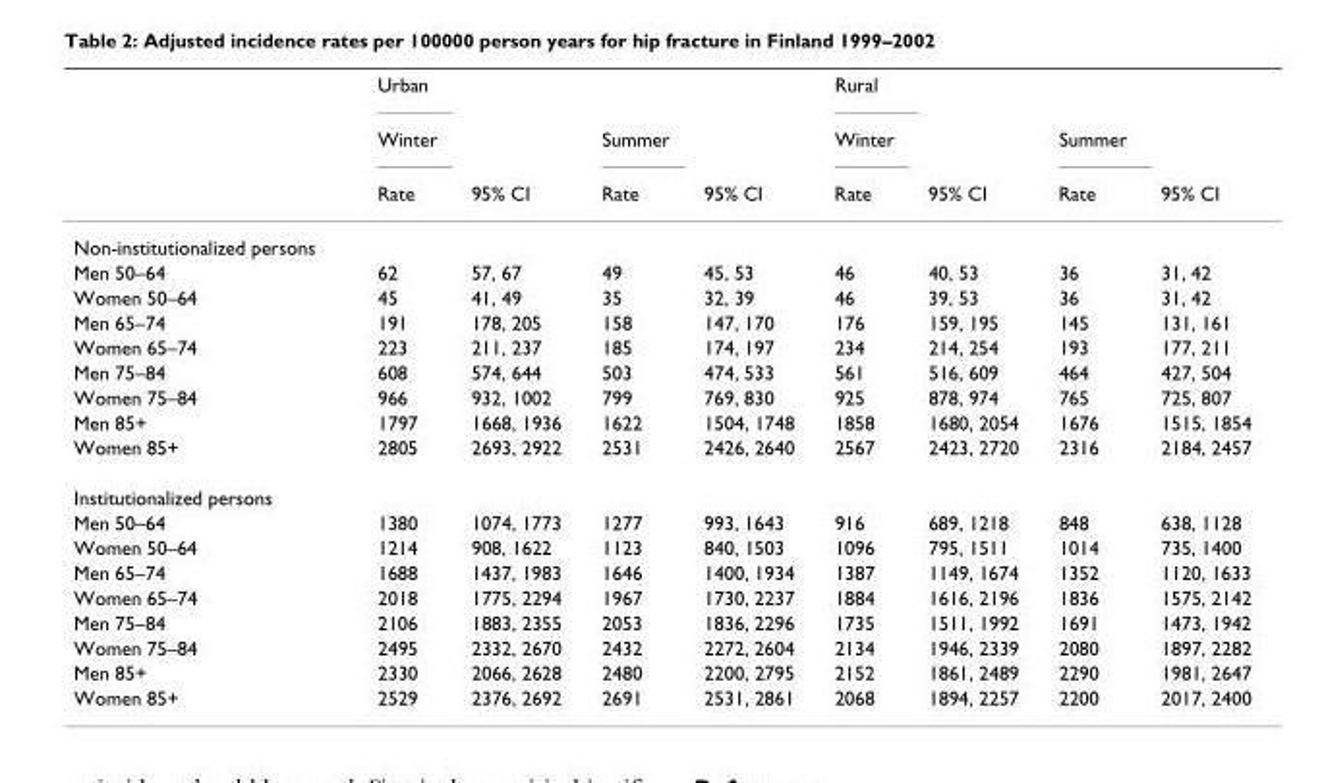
<table><thead><tr><td rowspan="3"></td><td rowspan="3">Urban Winter Rate</td><td rowspan="3">95% CI</td><td rowspan="3">Summer Rate</td><td rowspan="3">95% CI</td><td rowspan="3">Rural Winter Rate</td><td rowspan="3">95% CI</td><td rowspan="3">Summer Rate</td><td rowspan="3">95% CI</td></tr><tr></tr><tr></tr></thead><tbody><tr><td colspan="9">Non-institutionalized persons</td></tr><tr><td>Men 50–64</td><td>62</td><td>57, 67</td><td>49</td><td>45, 53</td><td>46</td><td>40, 53</td><td>36</td><td>31, 42</td></tr><tr><td>Women 50–64</td><td>45</td><td>41, 49</td><td>35</td><td>32, 39</td><td>46</td><td>39, 53</td><td>36</td><td>31, 42</td></tr><tr><td>Men 65–74</td><td>191</td><td>178, 205</td><td>158</td><td>147, 170</td><td>176</td><td>159, 195</td><td>145</td><td>131, 161</td></tr><tr><td>Women 65–74</td><td>223</td><td>211, 237</td><td>185</td><td>174, 197</td><td>234</td><td>214, 254</td><td>193</td><td>177, 211</td></tr><tr><td>Men 75–84</td><td>608</td><td>574, 644</td><td>503</td><td>474, 533</td><td>561</td><td>516, 609</td><td>464</td><td>427, 504</td></tr><tr><td>Women 75–84</td><td>966</td><td>932, 1002</td><td>799</td><td>769, 830</td><td>925</td><td>878, 974</td><td>765</td><td>725, 807</td></tr><tr><td>Men 85+</td><td>1797</td><td>1668, 1936</td><td>1622</td><td>1504, 1748</td><td>1858</td><td>1680, 2054</td><td>1676</td><td>1515, 1854</td></tr><tr><td>Women 85+</td><td>2805</td><td>2693, 2922</td><td>2531</td><td>2426, 2640</td><td>2567</td><td>2423, 2720</td><td>2316</td><td>2184, 2457</td></tr><tr><td colspan="9">Institutionalized persons</td></tr><tr><td>Men 50–64</td><td>1380</td><td>1074, 1773</td><td>1277</td><td>993, 1643</td><td>916</td><td>689, 1218</td><td>848</td><td>638, 1128</td></tr><tr><td>Women 50–64</td><td>1214</td><td>908, 1622</td><td>1123</td><td>840, 1503</td><td>1096</td><td>795, 1511</td><td>1014</td><td>735, 1400</td></tr><tr><td>Men 65–74</td><td>1688</td><td>1437, 1983</td><td>1646</td><td>1400, 1934</td><td>1387</td><td>1149, 1674</td><td>1352</td><td>1120, 1633</td></tr><tr><td>Women 65–74</td><td>2018</td><td>1775, 2294</td><td>1967</td><td>1730, 2237</td><td>1884</td><td>1616, 2196</td><td>1836</td><td>1575, 2142</td></tr><tr><td>Men 75–84</td><td>2106</td><td>1883, 2355</td><td>2053</td><td>1836, 2296</td><td>1735</td><td>1511, 1992</td><td>1691</td><td>1473, 1942</td></tr><tr><td>Women 75–84</td><td>2495</td><td>2332, 2670</td><td>2432</td><td>2272, 2604</td><td>2134</td><td>1946, 2339</td><td>2080</td><td>1897, 2282</td></tr><tr><td>Men 85+</td><td>2330</td><td>2066, 2628</td><td>2480</td><td>2200, 2795</td><td>2152</td><td>1861, 2489</td><td>2290</td><td>1981, 2647</td></tr><tr><td>Women 85+</td><td>2529</td><td>2376, 2692</td><td>2691</td><td>2531, 2861</td><td>2068</td><td>1894, 2257</td><td>2200</td><td>2017, 2400</td></tr></tbody></table>